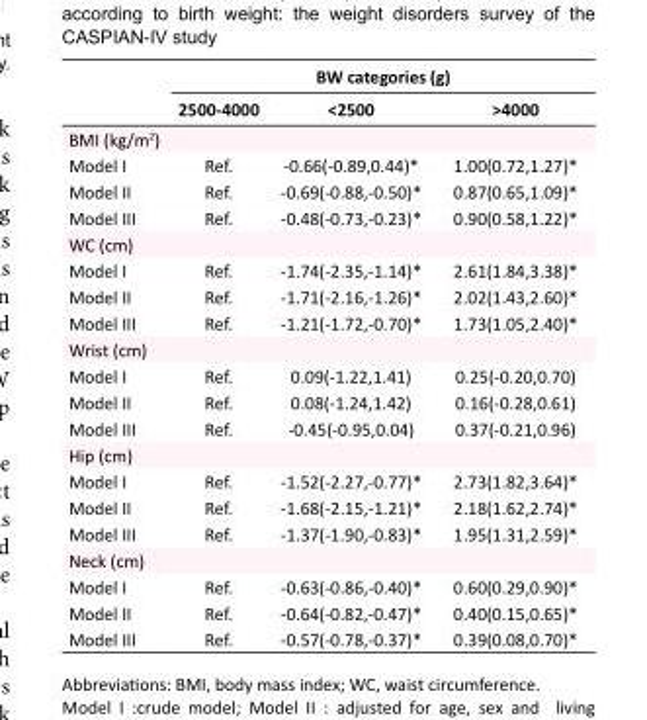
<table><thead><tr><td rowspan="2"></td><td colspan="3">BW categories (g)</td></tr><tr><td>2500-4000</td><td>&lt;2500</td><td>&gt;4000</td></tr></thead><tbody><tr><td colspan="4">BMI (kg/m<sup>2</sup>)</td></tr><tr><td>Model I</td><td>Ref.</td><td>-0.66(-0.89,0.44)*</td><td>1.00(0.72,1.27)*</td></tr><tr><td>Model II</td><td>Ref.</td><td>-0.69(-0.88,-0.50)*</td><td>0.87(0.65,1.09)*</td></tr><tr><td>Model III</td><td>Ref.</td><td>-0.48(-0.73,-0.23)*</td><td>0.90(0.58,1.22)*</td></tr><tr><td colspan="4">WC (cm)</td></tr><tr><td>Model I</td><td>Ref.</td><td>-1.74(-2.35,-1.14)*</td><td>2.61(1.84,3.38)*</td></tr><tr><td>Model II</td><td>Ref.</td><td>-1.71(-2.16,-1.26)*</td><td>2.02(1.43,2.60)*</td></tr><tr><td>Model III</td><td>Ref.</td><td>-1.21(-1.72,-0.70)*</td><td>1.73(1.05,2.40)*</td></tr><tr><td colspan="4">Wrist (cm)</td></tr><tr><td>Model I</td><td>Ref.</td><td>0.09(-1.22,1.41)</td><td>0.25(-0.20,0.70)</td></tr><tr><td>Model II</td><td>Ref.</td><td>0.08(-1.24,1.42)</td><td>0.16(-0.28,0.61)</td></tr><tr><td>Model III</td><td>Ref.</td><td>-0.45(-0.95,0.04)</td><td>0.37(-0.21,0.96)</td></tr><tr><td colspan="4">Hip (cm)</td></tr><tr><td>Model I</td><td>Ref.</td><td>-1.52(-2.27,-0.77)*</td><td>2.73(1.82,3.64)*</td></tr><tr><td>Model II</td><td>Ref.</td><td>-1.68(-2.15,-1.21)*</td><td>2.18(1.62,2.74)*</td></tr><tr><td>Model III</td><td>Ref.</td><td>-1.37(-1.90,-0.83)*</td><td>1.95(1.31,2.59)*</td></tr><tr><td colspan="4">Neck (cm)</td></tr><tr><td>Model I</td><td>Ref.</td><td>-0.63(-0.86,-0.40)*</td><td>0.60(0.29,0.90)*</td></tr><tr><td>Model II</td><td>Ref.</td><td>-0.64(-0.82,-0.47)*</td><td>0.40(0.15,0.65)*</td></tr><tr><td>Model III</td><td>Ref.</td><td>-0.57(-0.78,-0.37)*</td><td>0.39(0.08,0.70)*</td></tr></tbody></table>